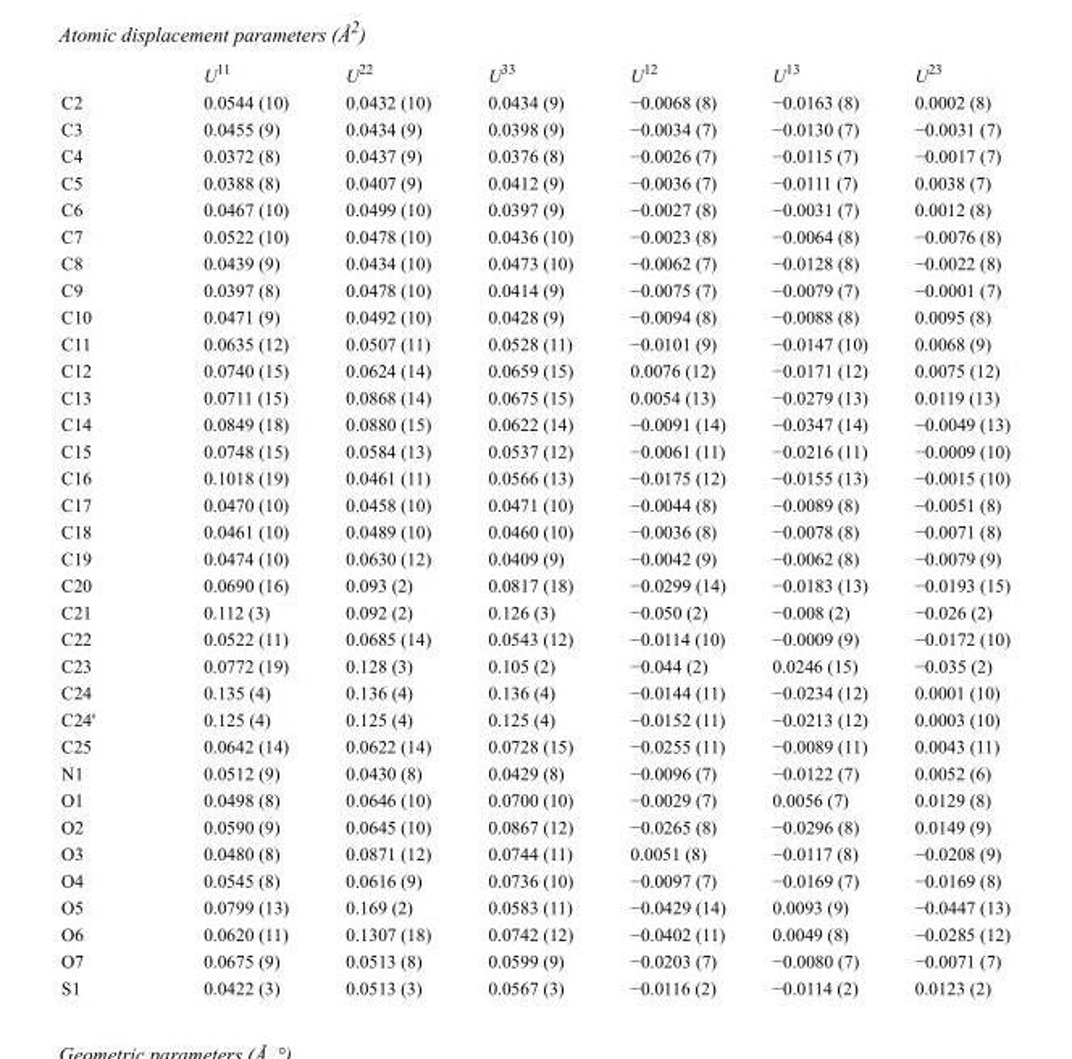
<table><thead><tr><td></td><td>U<sup>11</sup></td><td>U<sup>22</sup></td><td>U<sup>33</sup></td><td>U<sup>12</sup></td><td>U<sup>13</sup></td><td>U<sup>23</sup></td></tr></thead><tbody><tr><td>C2</td><td>0.0544 (10)</td><td>0.0432 (10)</td><td>0.0434 (9)</td><td>−0.0068 (8)</td><td>−0.0163 (8)</td><td>0.0002 (8)</td></tr><tr><td>C3</td><td>0.0455 (9)</td><td>0.0434 (9)</td><td>0.0398 (9)</td><td>−0.0034 (7)</td><td>−0.0130 (7)</td><td>−0.0031 (7)</td></tr><tr><td>C4</td><td>0.0372 (8)</td><td>0.0437 (9)</td><td>0.0376 (8)</td><td>−0.0026 (7)</td><td>−0.0115 (7)</td><td>−0.0017 (7)</td></tr><tr><td>C5</td><td>0.0388 (8)</td><td>0.0407 (9)</td><td>0.0412 (9)</td><td>−0.0036 (7)</td><td>−0.0111 (7)</td><td>0.0038 (7)</td></tr><tr><td>C6</td><td>0.0467 (10)</td><td>0.0499 (10)</td><td>0.0397 (9)</td><td>−0.0027 (8)</td><td>−0.0031 (7)</td><td>0.0012 (8)</td></tr><tr><td>C7</td><td>0.0522 (10)</td><td>0.0478 (10)</td><td>0.0436 (10)</td><td>−0.0023 (8)</td><td>−0.0064 (8)</td><td>−0.0076 (8)</td></tr><tr><td>C8</td><td>0.0439 (9)</td><td>0.0434 (10)</td><td>0.0473 (10)</td><td>−0.0062 (7)</td><td>−0.0128 (8)</td><td>−0.0022 (8)</td></tr><tr><td>C9</td><td>0.0397 (8)</td><td>0.0478 (10)</td><td>0.0414 (9)</td><td>−0.0075 (7)</td><td>−0.0079 (7)</td><td>−0.0001 (7)</td></tr><tr><td>C10</td><td>0.0471 (9)</td><td>0.0492 (10)</td><td>0.0428 (9)</td><td>−0.0094 (8)</td><td>−0.0088 (8)</td><td>0.0095 (8)</td></tr><tr><td>C11</td><td>0.0635 (12)</td><td>0.0507 (11)</td><td>0.0528 (11)</td><td>−0.0101 (9)</td><td>−0.0147 (10)</td><td>0.0068 (9)</td></tr><tr><td>C12</td><td>0.0740 (15)</td><td>0.0624 (14)</td><td>0.0659 (15)</td><td>0.0076 (12)</td><td>−0.0171 (12)</td><td>0.0075 (12)</td></tr><tr><td>C13</td><td>0.0711 (15)</td><td>0.0868 (14)</td><td>0.0675 (15)</td><td>0.0054 (13)</td><td>−0.0279 (13)</td><td>0.0119 (13)</td></tr><tr><td>C14</td><td>0.0849 (18)</td><td>0.0880 (15)</td><td>0.0622 (14)</td><td>−0.0091 (14)</td><td>−0.0347 (14)</td><td>−0.0049 (13)</td></tr><tr><td>C15</td><td>0.0748 (15)</td><td>0.0584 (13)</td><td>0.0537 (12)</td><td>−0.0061 (11)</td><td>−0.0216 (11)</td><td>−0.0009 (10)</td></tr><tr><td>C16</td><td>0.1018 (19)</td><td>0.0461 (11)</td><td>0.0566 (13)</td><td>−0.0175 (12)</td><td>−0.0155 (13)</td><td>−0.0015 (10)</td></tr><tr><td>C17</td><td>0.0470 (10)</td><td>0.0458 (10)</td><td>0.0471 (10)</td><td>−0.0044 (8)</td><td>−0.0089 (8)</td><td>−0.0051 (8)</td></tr><tr><td>C18</td><td>0.0461 (10)</td><td>0.0489 (10)</td><td>0.0460 (10)</td><td>−0.0036 (8)</td><td>−0.0078 (8)</td><td>−0.0071 (8)</td></tr><tr><td>C19</td><td>0.0474 (10)</td><td>0.0630 (12)</td><td>0.0409 (9)</td><td>−0.0042 (9)</td><td>−0.0062 (8)</td><td>−0.0079 (9)</td></tr><tr><td>C20</td><td>0.0690 (16)</td><td>0.093 (2)</td><td>0.0817 (18)</td><td>−0.0299 (14)</td><td>−0.0183 (13)</td><td>−0.0193 (15)</td></tr><tr><td>C21</td><td>0.112 (3)</td><td>0.092 (2)</td><td>0.126 (3)</td><td>−0.050 (2)</td><td>−0.008 (2)</td><td>−0.026 (2)</td></tr><tr><td>C22</td><td>0.0522 (11)</td><td>0.0685 (14)</td><td>0.0543 (12)</td><td>−0.0114 (10)</td><td>−0.0009 (9)</td><td>−0.0172 (10)</td></tr><tr><td>C23</td><td>0.0772 (19)</td><td>0.128 (3)</td><td>0.105 (2)</td><td>−0.044 (2)</td><td>0.0246 (15)</td><td>−0.035 (2)</td></tr><tr><td>C24</td><td>0.135 (4)</td><td>0.136 (4)</td><td>0.136 (4)</td><td>−0.0144 (11)</td><td>−0.0234 (12)</td><td>0.0001 (10)</td></tr><tr><td>C24&#x27;</td><td>0.125 (4)</td><td>0.125 (4)</td><td>0.125 (4)</td><td>−0.0152 (11)</td><td>−0.0213 (12)</td><td>0.0003 (10)</td></tr><tr><td>C25</td><td>0.0642 (14)</td><td>0.0622 (14)</td><td>0.0728 (15)</td><td>−0.0255 (11)</td><td>−0.0089 (11)</td><td>0.0043 (11)</td></tr><tr><td>N1</td><td>0.0512 (9)</td><td>0.0430 (8)</td><td>0.0429 (8)</td><td>−0.0096 (7)</td><td>−0.0122 (7)</td><td>0.0052 (6)</td></tr><tr><td>O1</td><td>0.0498 (8)</td><td>0.0646 (10)</td><td>0.0700 (10)</td><td>−0.0029 (7)</td><td>0.0056 (7)</td><td>0.0129 (8)</td></tr><tr><td>O2</td><td>0.0590 (9)</td><td>0.0645 (10)</td><td>0.0867 (12)</td><td>−0.0265 (8)</td><td>−0.0296 (8)</td><td>0.0149 (9)</td></tr><tr><td>O3</td><td>0.0480 (8)</td><td>0.0871 (12)</td><td>0.0744 (11)</td><td>0.0051 (8)</td><td>−0.0117 (8)</td><td>−0.0208 (9)</td></tr><tr><td>O4</td><td>0.0545 (8)</td><td>0.0616 (9)</td><td>0.0736 (10)</td><td>−0.0097 (7)</td><td>−0.0169 (7)</td><td>−0.0169 (8)</td></tr><tr><td>O5</td><td>0.0799 (13)</td><td>0.169 (2)</td><td>0.0583 (11)</td><td>−0.0429 (14)</td><td>0.0093 (9)</td><td>−0.0447 (13)</td></tr><tr><td>O6</td><td>0.0620 (11)</td><td>0.1307 (18)</td><td>0.0742 (12)</td><td>−0.0402 (11)</td><td>0.0049 (8)</td><td>−0.0285 (12)</td></tr><tr><td>O7</td><td>0.0675 (9)</td><td>0.0513 (8)</td><td>0.0599 (9)</td><td>−0.0203 (7)</td><td>−0.0080 (7)</td><td>−0.0071 (7)</td></tr><tr><td>S1</td><td>0.0422 (3)</td><td>0.0513 (3)</td><td>0.0567 (3)</td><td>−0.0116 (2)</td><td>−0.0114 (2)</td><td>0.0123 (2)</td></tr></tbody></table>